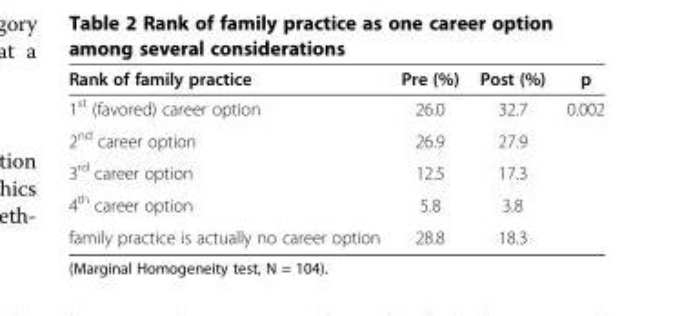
<table><thead><tr><td>Rank of family practice</td><td>Pre (%)</td><td>Post (%)</td><td>p</td></tr></thead><tbody><tr><td>1<sup>st</sup> (favored) career option</td><td>26.0</td><td>32.7</td><td rowspan="4">0.002</td></tr><tr><td>2<sup>nd</sup> career option</td><td>26.9</td><td>27.9</td></tr><tr><td>3<sup>rd</sup> career option</td><td>12.5</td><td>17.3</td></tr><tr><td>4<sup>th</sup> career option</td><td>5.8</td><td>3.8</td></tr><tr><td>family practice is actually no career option</td><td>28.8</td><td>18.3</td><td></td></tr></tbody></table>